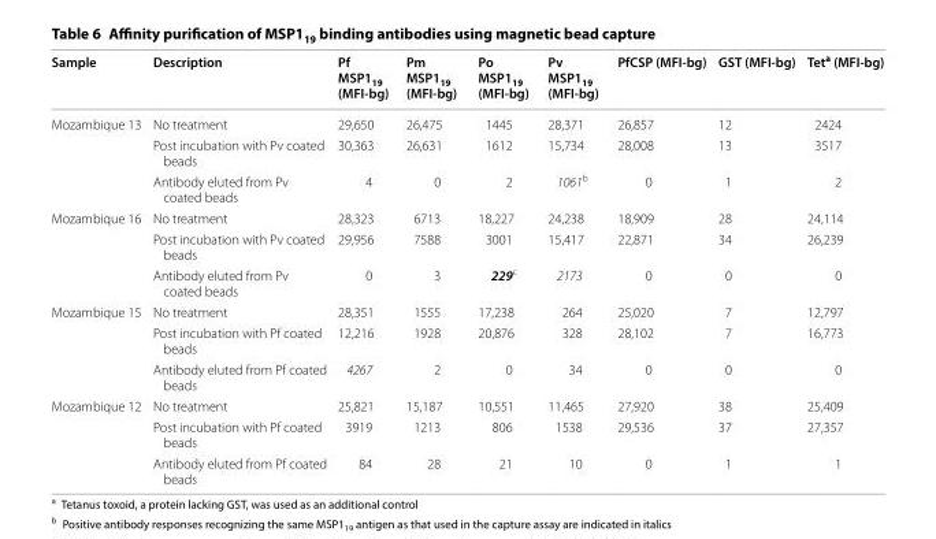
<table><thead><tr><td>Sample</td><td>Description</td><td>Pf MSP1<sub>19</sub> (MFI‑bg)</td><td>Pm MSP1<sub>19</sub> (MFI‑bg)</td><td>Po MSP1<sub>19</sub> (MFI‑bg)</td><td>Pv MSP1<sub>19</sub> (MFI‑bg)</td><td>PfCSP (MFI‑bg)</td><td>GST (MFI‑bg)</td><td>Tet<sup>a</sup> (MFI‑bg)</td></tr></thead><tbody><tr><td rowspan="3">Mozambique 13</td><td>No treatment</td><td>29,650</td><td>26,475</td><td>1445</td><td>28,371</td><td>26,857</td><td>12</td><td>2424</td></tr><tr><td>Post incubation with Pv coated beads</td><td>30,363</td><td>26,631</td><td>1612</td><td>15,734</td><td>28,008</td><td>13</td><td>3517</td></tr><tr><td>Antibody eluted from Pv coated beads</td><td>4</td><td>0</td><td>2</td><td>1061<sup>b</sup></td><td>0</td><td>1</td><td>2</td></tr><tr><td rowspan="3">Mozambique 16</td><td>No treatment</td><td>28,323</td><td>6713</td><td>18,227</td><td>24,238</td><td>18,909</td><td>28</td><td>24,114</td></tr><tr><td>Post incubation with Pv coated beads</td><td>29,956</td><td>7588</td><td>3001</td><td>15,417</td><td>22,871</td><td>34</td><td>26,239</td></tr><tr><td>Antibody eluted from Pv coated beads</td><td>0</td><td>3</td><td>229<sup>c</sup></td><td>2173</td><td>0</td><td>0</td><td>0</td></tr><tr><td rowspan="3">Mozambique 15</td><td>No treatment</td><td>28,351</td><td>1555</td><td>17,238</td><td>264</td><td>25,020</td><td>7</td><td>12,797</td></tr><tr><td>Post incubation with Pf coated beads</td><td>12,216</td><td>1928</td><td>20,876</td><td>328</td><td>28,102</td><td>7</td><td>16,773</td></tr><tr><td>Antibody eluted from Pf coated beads</td><td>4267</td><td>2</td><td>0</td><td>34</td><td>0</td><td>0</td><td>0</td></tr><tr><td rowspan="3">Mozambique 12</td><td>No treatment</td><td>25,821</td><td>15,187</td><td>10,551</td><td>11,465</td><td>27,920</td><td>38</td><td>25,409</td></tr><tr><td>Post incubation with Pf coated beads</td><td>3919</td><td>1213</td><td>806</td><td>1538</td><td>29,536</td><td>37</td><td>27,357</td></tr><tr><td>Antibody eluted from Pf coated beads</td><td>84</td><td>28</td><td>21</td><td>10</td><td>0</td><td>1</td><td>1</td></tr></tbody></table>